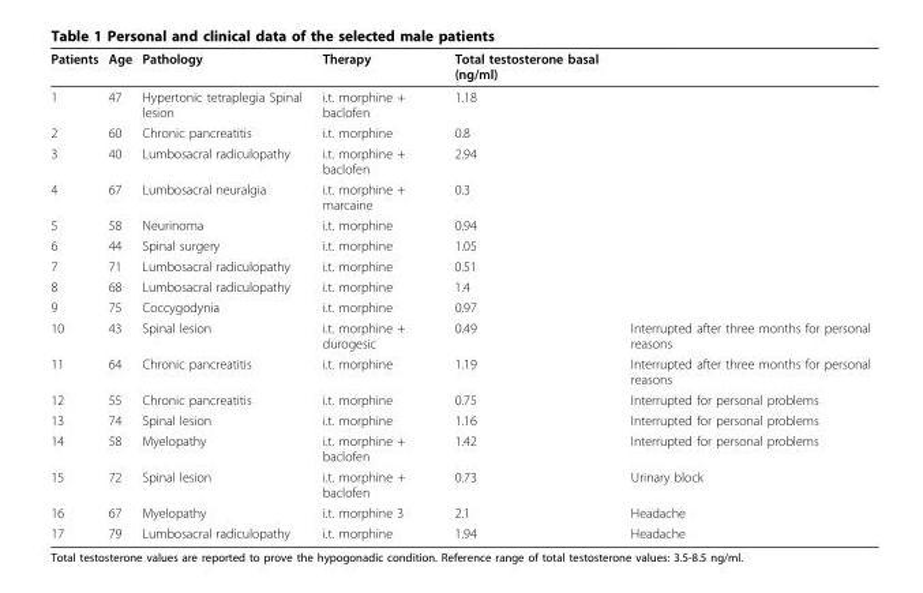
<table><thead><tr><td>Patients</td><td>Age</td><td>Pathology</td><td>Therapy</td><td>Total testosterone basal (ng/ml)</td><td></td></tr></thead><tbody><tr><td>1</td><td>47</td><td>Hypertonic tetraplegia Spinal lesion</td><td>i.t. morphine + baclofen</td><td>1.18</td><td></td></tr><tr><td>2</td><td>60</td><td>Chronic pancreatitis</td><td>i.t. morphine</td><td>0.8</td><td></td></tr><tr><td>3</td><td>40</td><td>Lumbosacral radiculopathy</td><td>i.t. morphine + baclofen</td><td>2.94</td><td></td></tr><tr><td>4</td><td>67</td><td>Lumbosacral neuralgia</td><td>i.t. morphine + marcaine</td><td>0.3</td><td></td></tr><tr><td>5</td><td>58</td><td>Neurinoma</td><td>i.t. morphine</td><td>0.94</td><td></td></tr><tr><td>6</td><td>44</td><td>Spinal surgery</td><td>i.t. morphine</td><td>1.05</td><td></td></tr><tr><td>7</td><td>71</td><td>Lumbosacral radiculopathy</td><td>i.t. morphine</td><td>0.51</td><td></td></tr><tr><td>8</td><td>68</td><td>Lumbosacral radiculopathy</td><td>i.t. morphine</td><td>1.4</td><td></td></tr><tr><td>9</td><td>75</td><td>Coccygodynia</td><td>i.t. morphine</td><td>0.97</td><td></td></tr><tr><td>10</td><td>43</td><td>Spinal lesion</td><td>i.t. morphine + durogesic</td><td>0.49</td><td>Interrupted after three months for personal reasons</td></tr><tr><td>11</td><td>64</td><td>Chronic pancreatitis</td><td>i.t. morphine</td><td>1.19</td><td>Interrupted after three months for personal reasons</td></tr><tr><td>12</td><td>55</td><td>Chronic pancreatitis</td><td>i.t. morphine</td><td>0.75</td><td>Interrupted for personal problems</td></tr><tr><td>13</td><td>74</td><td>Spinal lesion</td><td>i.t. morphine</td><td>1.16</td><td>Interrupted for personal problems</td></tr><tr><td>14</td><td>58</td><td>Myelopathy</td><td>i.t. morphine + baclofen</td><td>1.42</td><td>Interrupted for personal problems</td></tr><tr><td>15</td><td>72</td><td>Spinal lesion</td><td>i.t. morphine + baclofen</td><td>0.73</td><td>Urinary block</td></tr><tr><td>16</td><td>67</td><td>Myelopathy</td><td>i.t. morphine 3</td><td>2.1</td><td>Headache</td></tr><tr><td>17</td><td>79</td><td>Lumbosacral radiculopathy</td><td>i.t. morphine</td><td>1.94</td><td>Headache</td></tr></tbody></table>